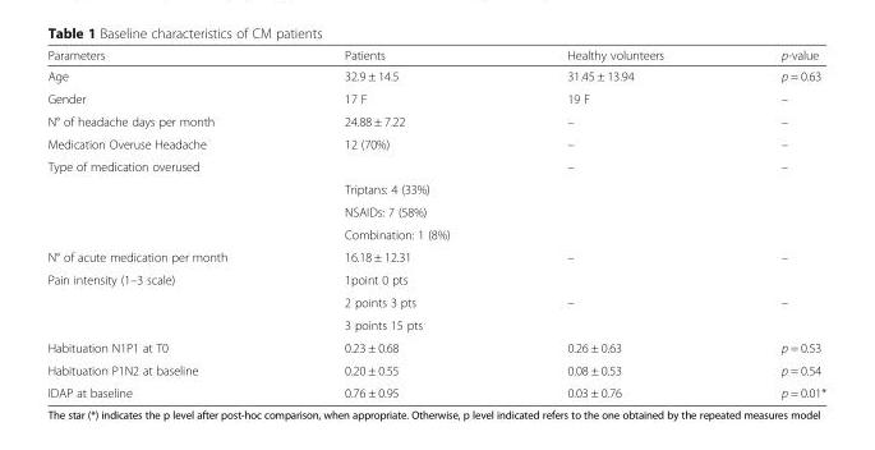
<table><thead><tr><td>Parameters</td><td>Patients</td><td>Healthy volunteers</td><td>p-value</td></tr></thead><tbody><tr><td>Age</td><td>32.9 ± 14.5</td><td>31.45 ± 13.94</td><td>p = 0.63</td></tr><tr><td>Gender</td><td>17 F</td><td>19 F</td><td>–</td></tr><tr><td>N° of headache days per month</td><td>24.88 ± 7.22</td><td>–</td><td>–</td></tr><tr><td>Medication Overuse Headache</td><td>12 (70%)</td><td>–</td><td>–</td></tr><tr><td rowspan="4">Type of medication overused</td><td></td><td>–</td><td>–</td></tr><tr><td>Triptans: 4 (33%)</td><td></td><td></td></tr><tr><td>NSAIDs: 7 (58%)</td><td></td><td></td></tr><tr><td>Combination: 1 (8%)</td><td></td><td></td></tr><tr><td>N° of acute medication per month</td><td>16.18 ± 12.31</td><td>–</td><td>–</td></tr><tr><td rowspan="3">Pain intensity (1–3 scale)</td><td>1point 0 pts</td><td></td><td></td></tr><tr><td>2 points 3 pts</td><td>–</td><td>–</td></tr><tr><td>3 points 15 pts</td><td></td><td></td></tr><tr><td>Habituation N1P1 at T0</td><td>0.23 ± 0.68</td><td>0.26 ± 0.63</td><td>p = 0.53</td></tr><tr><td>Habituation P1N2 at baseline</td><td>0.20 ± 0.55</td><td>0.08 ± 0.53</td><td>p = 0.54</td></tr><tr><td>IDAP at baseline</td><td>0.76 ± 0.95</td><td>0.03 ± 0.76</td><td>p = 0.01*</td></tr></tbody></table>